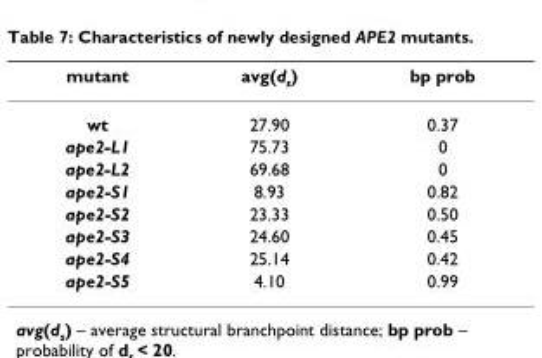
<table><thead><tr><td>mutant</td><td>avg(d<sub>s</sub>)</td><td>bp prob</td></tr></thead><tbody><tr><td>wt</td><td>27.90</td><td>0.37</td></tr><tr><td>ape2-L1</td><td>75.73</td><td>0</td></tr><tr><td>ape2-L2</td><td>69.68</td><td>0</td></tr><tr><td>ape2-S1</td><td>8.93</td><td>0.82</td></tr><tr><td>ape2-S2</td><td>23.33</td><td>0.50</td></tr><tr><td>ape2-S3</td><td>24.60</td><td>0.45</td></tr><tr><td>ape2-S4</td><td>25.14</td><td>0.42</td></tr><tr><td>ape2-S5</td><td>4.10</td><td>0.99</td></tr></tbody></table>